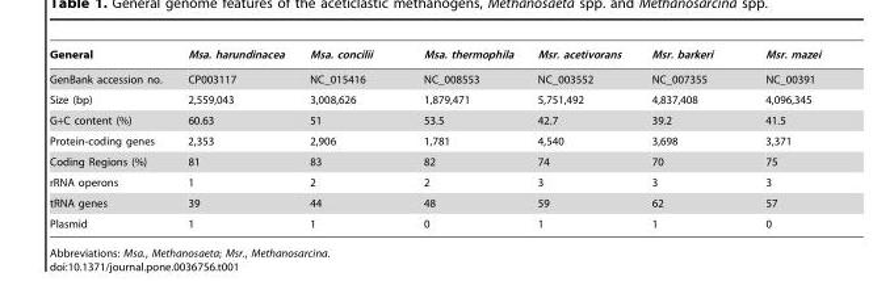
<table><thead><tr><td>General</td><td>Msa. harundinacea</td><td>Msa. concilii</td><td>Msa. thermophila</td><td>Msr. acetivorans</td><td>Msr. barkeri</td><td>Msr. mazei</td></tr></thead><tbody><tr><td>GenBank accession no.</td><td>CP003117</td><td>NC_015416</td><td>NC_008553</td><td>NC_003552</td><td>NC_007355</td><td>NC_00391</td></tr><tr><td>Size (bp)</td><td>2,559,043</td><td>3,008,626</td><td>1,879,471</td><td>5,751,492</td><td>4,837,408</td><td>4,096,345</td></tr><tr><td>G+C content (%)</td><td>60.63</td><td>51</td><td>53.5</td><td>42.7</td><td>39.2</td><td>41.5</td></tr><tr><td>Protein-coding genes</td><td>2,353</td><td>2,906</td><td>1,781</td><td>4,540</td><td>3,698</td><td>3,371</td></tr><tr><td>Coding Regions (%)</td><td>81</td><td>83</td><td>82</td><td>74</td><td>70</td><td>75</td></tr><tr><td>rRNA operons</td><td>1</td><td>2</td><td>2</td><td>3</td><td>3</td><td>3</td></tr><tr><td>tRNA genes</td><td>39</td><td>44</td><td>48</td><td>59</td><td>62</td><td>57</td></tr><tr><td>Plasmid</td><td>1</td><td>1</td><td>0</td><td>1</td><td>1</td><td>0</td></tr></tbody></table>